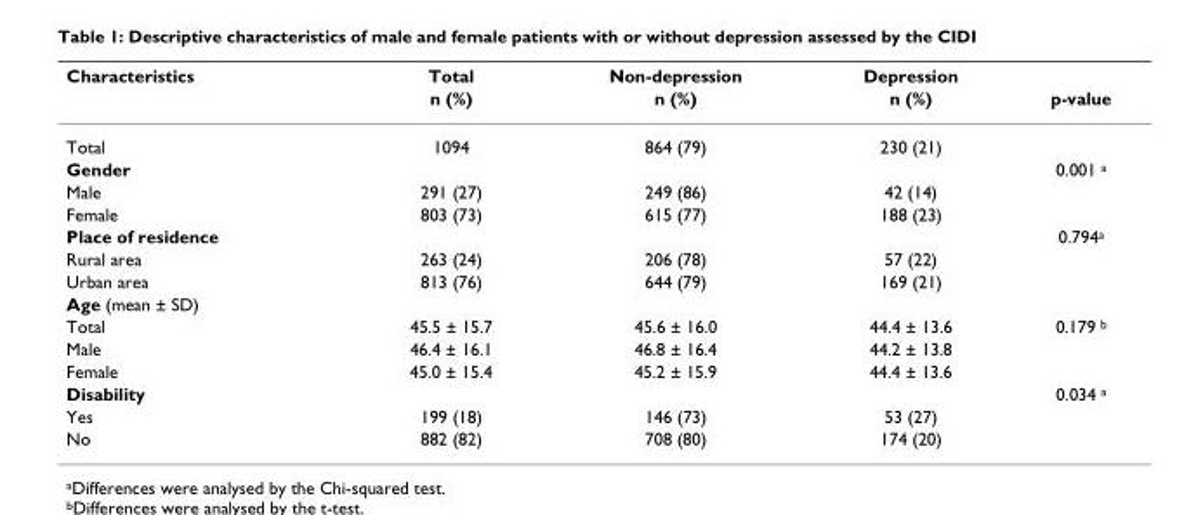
<table><thead><tr><td rowspan="2">Characteristics</td><td rowspan="2">Total n (%)</td><td rowspan="2">Non-depression n (%)</td><td rowspan="2">Depression n (%)</td><td rowspan="2">p-value</td></tr><tr></tr></thead><tbody><tr><td>Total</td><td>1094</td><td>864 (79)</td><td>230 (21)</td><td></td></tr><tr><td>Gender</td><td></td><td></td><td></td><td>0.001 <sup>a</sup></td></tr><tr><td>Male</td><td>291 (27)</td><td>249 (86)</td><td>42 (14)</td><td></td></tr><tr><td>Female</td><td>803 (73)</td><td>615 (77)</td><td>188 (23)</td><td></td></tr><tr><td>Place of residence</td><td></td><td></td><td></td><td>0.794<sup>a</sup></td></tr><tr><td>Rural area</td><td>263 (24)</td><td>206 (78)</td><td>57 (22)</td><td></td></tr><tr><td>Urban area</td><td>813 (76)</td><td>644 (79)</td><td>169 (21)</td><td></td></tr><tr><td colspan="5">Age (mean ± SD)</td></tr><tr><td>Total</td><td>45.5 ± 15.7</td><td>45.6 ± 16.0</td><td>44.4 ± 13.6</td><td>0.179 <sup>b</sup></td></tr><tr><td>Male</td><td>46.4 ± 16.1</td><td>46.8 ± 16.4</td><td>44.2 ± 13.8</td><td></td></tr><tr><td>Female</td><td>45.0 ± 15.4</td><td>45.2 ± 15.9</td><td>44.4 ± 13.6</td><td></td></tr><tr><td>Disability</td><td></td><td></td><td></td><td>0.034 <sup>a</sup></td></tr><tr><td>Yes</td><td>199 (18)</td><td>146 (73)</td><td>53 (27)</td><td></td></tr><tr><td>No</td><td>882 (82)</td><td>708 (80)</td><td>174 (20)</td><td></td></tr></tbody></table>